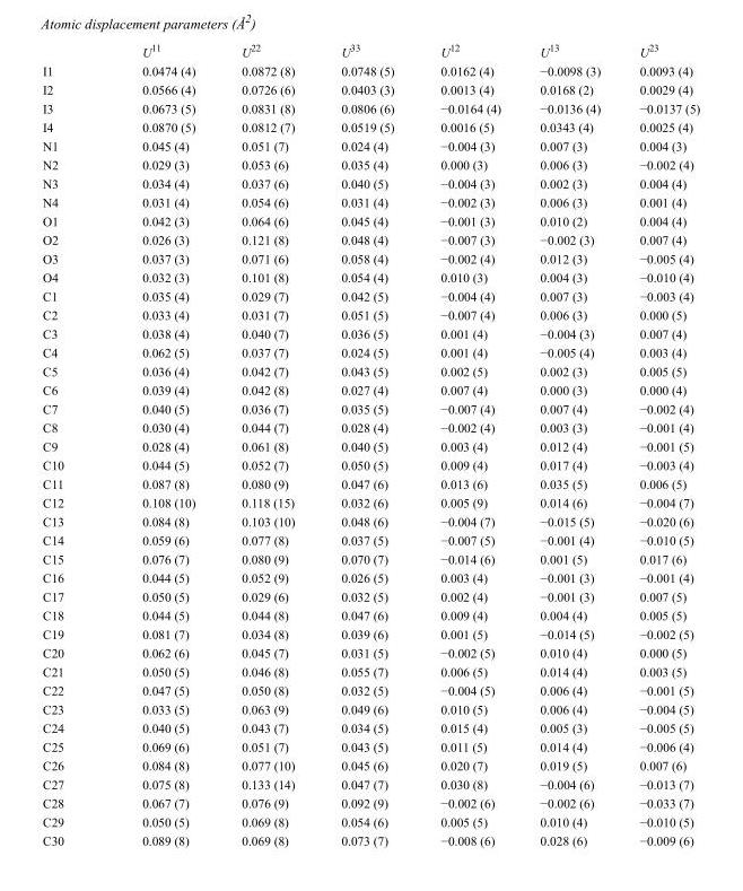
<table><thead><tr><td></td><td>U<sup>11</sup></td><td>U<sup>22</sup></td><td>U<sup>33</sup></td><td>U<sup>12</sup></td><td>U<sup>13</sup></td><td>U<sup>23</sup></td></tr></thead><tbody><tr><td>I1</td><td>0.0474 (4)</td><td>0.0872 (8)</td><td>0.0748 (5)</td><td>0.0162 (4)</td><td>−0.0098 (3)</td><td>0.0093 (4)</td></tr><tr><td>I2</td><td>0.0566 (4)</td><td>0.0726 (6)</td><td>0.0403 (3)</td><td>0.0013 (4)</td><td>0.0168 (2)</td><td>0.0029 (4)</td></tr><tr><td>I3</td><td>0.0673 (5)</td><td>0.0831 (8)</td><td>0.0806 (6)</td><td>−0.0164 (4)</td><td>−0.0136 (4)</td><td>−0.0137 (5)</td></tr><tr><td>I4</td><td>0.0870 (5)</td><td>0.0812 (7)</td><td>0.0519 (5)</td><td>0.0016 (5)</td><td>0.0343 (4)</td><td>0.0025 (4)</td></tr><tr><td>N1</td><td>0.045 (4)</td><td>0.051 (7)</td><td>0.024 (4)</td><td>−0.004 (3)</td><td>0.007 (3)</td><td>0.004 (3)</td></tr><tr><td>N2</td><td>0.029 (3)</td><td>0.053 (6)</td><td>0.035 (4)</td><td>0.000 (3)</td><td>0.006 (3)</td><td>−0.002 (4)</td></tr><tr><td>N3</td><td>0.034 (4)</td><td>0.037 (6)</td><td>0.040 (5)</td><td>−0.004 (3)</td><td>0.002 (3)</td><td>0.004 (4)</td></tr><tr><td>N4</td><td>0.031 (4)</td><td>0.054 (6)</td><td>0.031 (4)</td><td>−0.002 (3)</td><td>0.006 (3)</td><td>0.001 (4)</td></tr><tr><td>O1</td><td>0.042 (3)</td><td>0.064 (6)</td><td>0.045 (4)</td><td>−0.001 (3)</td><td>0.010 (2)</td><td>0.004 (4)</td></tr><tr><td>O2</td><td>0.026 (3)</td><td>0.121 (8)</td><td>0.048 (4)</td><td>−0.007 (3)</td><td>−0.002 (3)</td><td>0.007 (4)</td></tr><tr><td>O3</td><td>0.037 (3)</td><td>0.071 (6)</td><td>0.058 (4)</td><td>−0.002 (4)</td><td>0.012 (3)</td><td>−0.005 (4)</td></tr><tr><td>O4</td><td>0.032 (3)</td><td>0.101 (8)</td><td>0.054 (4)</td><td>0.010 (3)</td><td>0.004 (3)</td><td>−0.010 (4)</td></tr><tr><td>C1</td><td>0.035 (4)</td><td>0.029 (7)</td><td>0.042 (5)</td><td>−0.004 (4)</td><td>0.007 (3)</td><td>−0.003 (4)</td></tr><tr><td>C2</td><td>0.033 (4)</td><td>0.031 (7)</td><td>0.051 (5)</td><td>−0.007 (4)</td><td>0.006 (3)</td><td>0.000 (5)</td></tr><tr><td>C3</td><td>0.038 (4)</td><td>0.040 (7)</td><td>0.036 (5)</td><td>0.001 (4)</td><td>−0.004 (3)</td><td>0.007 (4)</td></tr><tr><td>C4</td><td>0.062 (5)</td><td>0.037 (7)</td><td>0.024 (5)</td><td>0.001 (4)</td><td>−0.005 (4)</td><td>0.003 (4)</td></tr><tr><td>C5</td><td>0.036 (4)</td><td>0.042 (7)</td><td>0.043 (5)</td><td>0.002 (5)</td><td>0.002 (3)</td><td>0.005 (5)</td></tr><tr><td>C6</td><td>0.039 (4)</td><td>0.042 (8)</td><td>0.027 (4)</td><td>0.007 (4)</td><td>0.000 (3)</td><td>0.000 (4)</td></tr><tr><td>C7</td><td>0.040 (5)</td><td>0.036 (7)</td><td>0.035 (5)</td><td>−0.007 (4)</td><td>0.007 (4)</td><td>−0.002 (4)</td></tr><tr><td>C8</td><td>0.030 (4)</td><td>0.044 (7)</td><td>0.028 (4)</td><td>−0.002 (4)</td><td>0.003 (3)</td><td>−0.001 (4)</td></tr><tr><td>C9</td><td>0.028 (4)</td><td>0.061 (8)</td><td>0.040 (5)</td><td>0.003 (4)</td><td>0.012 (4)</td><td>−0.001 (5)</td></tr><tr><td>C10</td><td>0.044 (5)</td><td>0.052 (7)</td><td>0.050 (5)</td><td>0.009 (4)</td><td>0.017 (4)</td><td>−0.003 (4)</td></tr><tr><td>C11</td><td>0.087 (8)</td><td>0.080 (9)</td><td>0.047 (6)</td><td>0.013 (6)</td><td>0.035 (5)</td><td>0.006 (5)</td></tr><tr><td>C12</td><td>0.108 (10)</td><td>0.118 (15)</td><td>0.032 (6)</td><td>0.005 (9)</td><td>0.014 (6)</td><td>−0.004 (7)</td></tr><tr><td>C13</td><td>0.084 (8)</td><td>0.103 (10)</td><td>0.048 (6)</td><td>−0.004 (7)</td><td>−0.015 (5)</td><td>−0.020 (6)</td></tr><tr><td>C14</td><td>0.059 (6)</td><td>0.077 (8)</td><td>0.037 (5)</td><td>−0.007 (5)</td><td>−0.001 (4)</td><td>−0.010 (5)</td></tr><tr><td>C15</td><td>0.076 (7)</td><td>0.080 (9)</td><td>0.070 (7)</td><td>−0.014 (6)</td><td>0.001 (5)</td><td>0.017 (6)</td></tr><tr><td>C16</td><td>0.044 (5)</td><td>0.052 (9)</td><td>0.026 (5)</td><td>0.003 (4)</td><td>−0.001 (3)</td><td>−0.001 (4)</td></tr><tr><td>C17</td><td>0.050 (5)</td><td>0.029 (6)</td><td>0.032 (5)</td><td>0.002 (4)</td><td>−0.001 (3)</td><td>0.007 (5)</td></tr><tr><td>C18</td><td>0.044 (5)</td><td>0.044 (8)</td><td>0.047 (6)</td><td>0.009 (4)</td><td>0.004 (4)</td><td>0.005 (5)</td></tr><tr><td>C19</td><td>0.081 (7)</td><td>0.034 (8)</td><td>0.039 (6)</td><td>0.001 (5)</td><td>−0.014 (5)</td><td>−0.002 (5)</td></tr><tr><td>C20</td><td>0.062 (6)</td><td>0.045 (7)</td><td>0.031 (5)</td><td>−0.002 (5)</td><td>0.010 (4)</td><td>0.000 (5)</td></tr><tr><td>C21</td><td>0.050 (5)</td><td>0.046 (8)</td><td>0.055 (7)</td><td>0.006 (5)</td><td>0.014 (4)</td><td>0.003 (5)</td></tr><tr><td>C22</td><td>0.047 (5)</td><td>0.050 (8)</td><td>0.032 (5)</td><td>−0.004 (5)</td><td>0.006 (4)</td><td>−0.001 (5)</td></tr><tr><td>C23</td><td>0.033 (5)</td><td>0.063 (9)</td><td>0.049 (6)</td><td>0.010 (5)</td><td>0.006 (4)</td><td>−0.004 (5)</td></tr><tr><td>C24</td><td>0.040 (5)</td><td>0.043 (7)</td><td>0.034 (5)</td><td>0.015 (4)</td><td>0.005 (3)</td><td>−0.005 (5)</td></tr><tr><td>C25</td><td>0.069 (6)</td><td>0.051 (7)</td><td>0.043 (5)</td><td>0.011 (5)</td><td>0.014 (4)</td><td>−0.006 (4)</td></tr><tr><td>C26</td><td>0.084 (8)</td><td>0.077 (10)</td><td>0.045 (6)</td><td>0.020 (7)</td><td>0.019 (5)</td><td>0.007 (6)</td></tr><tr><td>C27</td><td>0.075 (8)</td><td>0.133 (14)</td><td>0.047 (7)</td><td>0.030 (8)</td><td>−0.004 (6)</td><td>−0.013 (7)</td></tr><tr><td>C28</td><td>0.067 (7)</td><td>0.076 (9)</td><td>0.092 (9)</td><td>−0.002 (6)</td><td>−0.002 (6)</td><td>−0.033 (7)</td></tr><tr><td>C29</td><td>0.050 (5)</td><td>0.069 (8)</td><td>0.054 (6)</td><td>0.005 (5)</td><td>0.010 (4)</td><td>−0.010 (5)</td></tr><tr><td>C30</td><td>0.089 (8)</td><td>0.069 (8)</td><td>0.073 (7)</td><td>−0.008 (6)</td><td>0.028 (6)</td><td>−0.009 (6)</td></tr></tbody></table>